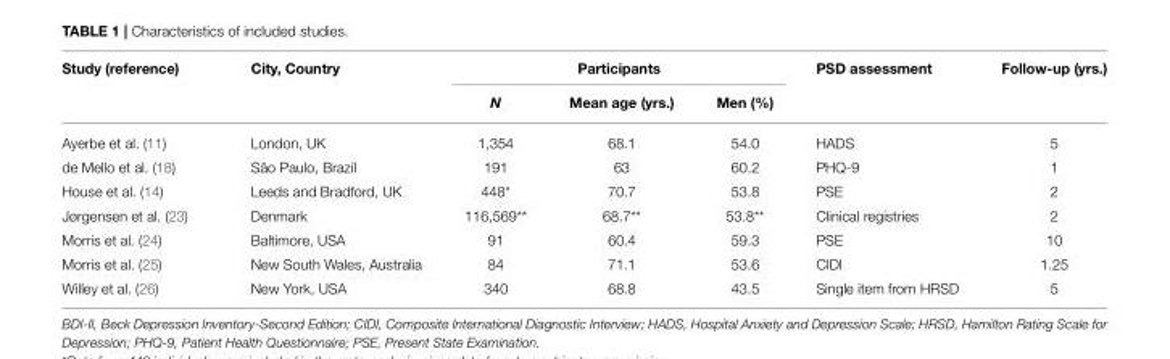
<table><thead><tr><td rowspan="2">Study (reference)</td><td rowspan="2">City, Country</td><td colspan="3">Participants</td><td rowspan="2">PSD assessment</td><td rowspan="2">Follow-up (yrs.)</td></tr><tr><td>N</td><td>Mean age (yrs.)</td><td>Men (%)</td></tr></thead><tbody><tr><td>Ayerbe et al. (11)</td><td>London, UK</td><td>1,354</td><td>68.1</td><td>54.0</td><td>HADS</td><td>5</td></tr><tr><td>de Mello et al. (18)</td><td>São Paulo, Brazil</td><td>191</td><td>63</td><td>60.2</td><td>PHQ-9</td><td>1</td></tr><tr><td>House et al. (14)</td><td>Leeds and Bradford, UK</td><td>448*</td><td>70.7</td><td>53.8</td><td>PSE</td><td>2</td></tr><tr><td>Jørgensen et al. (23)</td><td>Denmark</td><td>116,569**</td><td>68.7**</td><td>53.8**</td><td>Clinical registries</td><td>2</td></tr><tr><td>Morris et al. (24)</td><td>Baltimore, USA</td><td>91</td><td>60.4</td><td>59.3</td><td>PSE</td><td>10</td></tr><tr><td>Morris et al. (25)</td><td>New South Wales, Australia</td><td>84</td><td>71.1</td><td>53.6</td><td>CIDI</td><td>1.25</td></tr><tr><td>Willey et al. (26)</td><td>New York, USA</td><td>340</td><td>68.8</td><td>43.5</td><td>Single item from HRSD</td><td>5</td></tr></tbody></table>